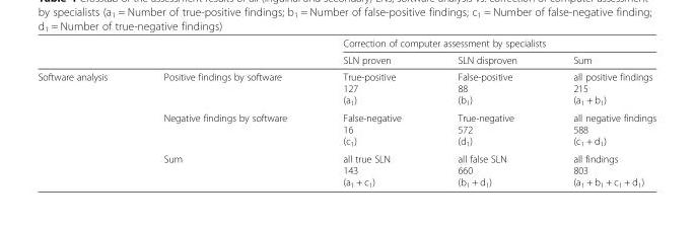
<table><thead><tr><td rowspan="2"></td><td rowspan="2"></td><td colspan="3">Correction of computer assessment by specialists</td></tr><tr><td>SLN proven</td><td>SLN disproven</td><td>Sum</td></tr></thead><tbody><tr><td rowspan="3">Software analysis</td><td>Positive findings by software</td><td>True-positive 127 (a<sub>1</sub>)</td><td>False-positive 88 (b<sub>1</sub>)</td><td>all positive findings 215 (a<sub>1</sub> + b<sub>1</sub>)</td></tr><tr><td>Negative findings by software</td><td>False-negative 16 (c<sub>1</sub>)</td><td>True-negative 572 (d<sub>1</sub>)</td><td>all negative findings 588 (c<sub>1</sub> + d<sub>1</sub>)</td></tr><tr><td>Sum</td><td>all true SLN 143 (a<sub>1</sub> + c<sub>1</sub>)</td><td>all false SLN 660 (b<sub>1</sub> + d<sub>1</sub>)</td><td>all findings 803 (a<sub>1</sub> + b<sub>1</sub> + c<sub>1</sub> + d<sub>1</sub>)</td></tr></tbody></table>